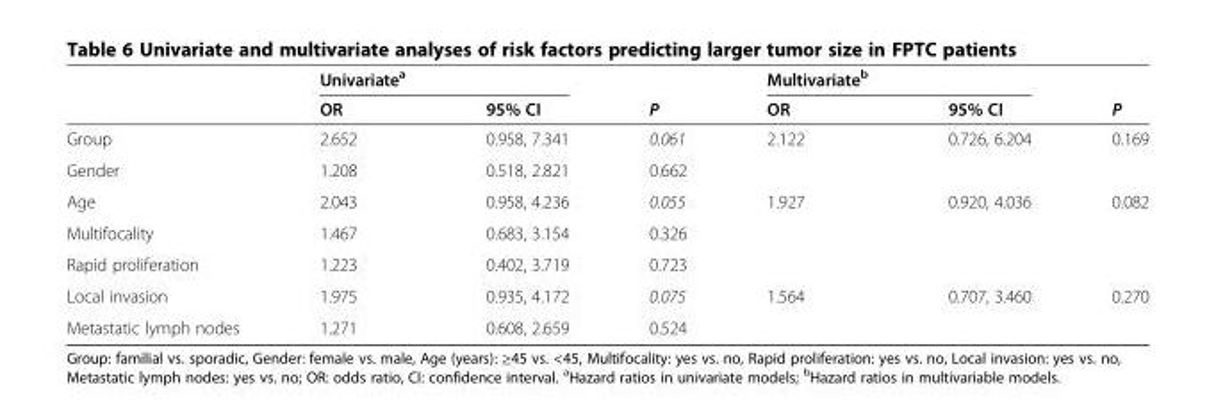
<table><thead><tr><td rowspan="2"></td><td rowspan="2">Univariate<sup>a</sup> OR</td><td rowspan="2">95% CI</td><td rowspan="2">P</td><td rowspan="2">Multivariate<sup>b</sup> OR</td><td rowspan="2">95% CI</td><td rowspan="2">P</td></tr><tr></tr></thead><tbody><tr><td>Group</td><td>2.652</td><td>0.958, 7.341</td><td>0.061</td><td>2.122</td><td>0.726, 6.204</td><td>0.169</td></tr><tr><td>Gender</td><td>1.208</td><td>0.518, 2.821</td><td>0.662</td><td></td><td></td><td></td></tr><tr><td>Age</td><td>2.043</td><td>0.958, 4.236</td><td>0.055</td><td>1.927</td><td>0.920, 4.036</td><td>0.082</td></tr><tr><td>Multifocality</td><td>1.467</td><td>0.683, 3.154</td><td>0.326</td><td></td><td></td><td></td></tr><tr><td>Rapid proliferation</td><td>1.223</td><td>0.402, 3.719</td><td>0.723</td><td></td><td></td><td></td></tr><tr><td>Local invasion</td><td>1.975</td><td>0.935, 4.172</td><td>0.075</td><td>1.564</td><td>0.707, 3.460</td><td>0.270</td></tr><tr><td>Metastatic lymph nodes</td><td>1.271</td><td>0.608, 2.659</td><td>0.524</td><td></td><td></td><td></td></tr></tbody></table>